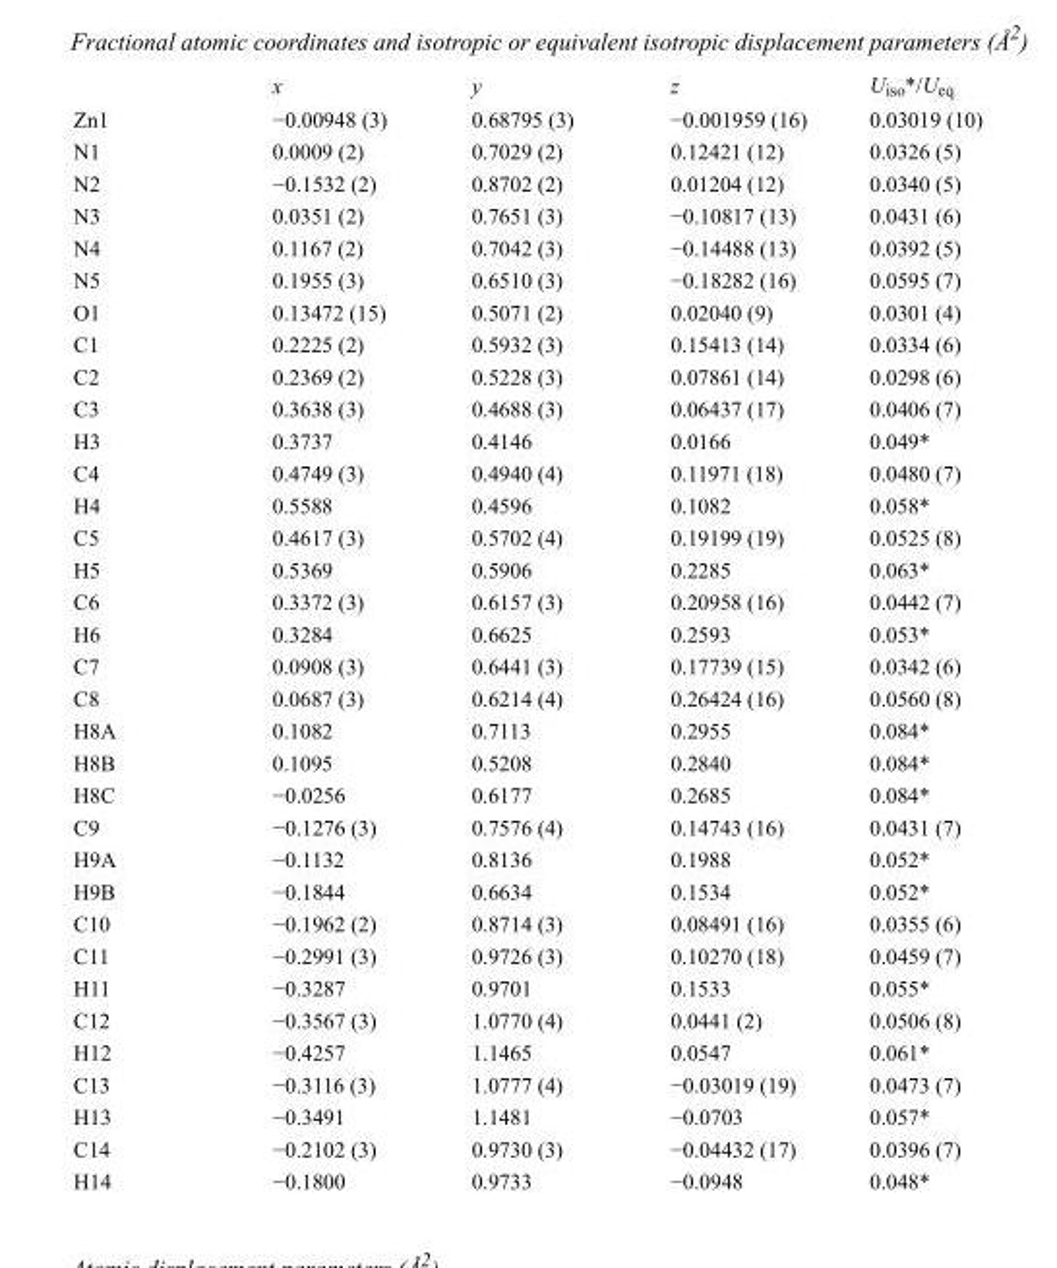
<table><thead><tr><td></td><td>x</td><td>y</td><td>z</td><td>U<sub>iso</sub>*/U<sub>eq</sub></td></tr></thead><tbody><tr><td>Zn1</td><td>−0.00948 (3)</td><td>0.68795 (3)</td><td>−0.001959 (16)</td><td>0.03019 (10)</td></tr><tr><td>N1</td><td>0.0009 (2)</td><td>0.7029 (2)</td><td>0.12421 (12)</td><td>0.0326 (5)</td></tr><tr><td>N2</td><td>−0.1532 (2)</td><td>0.8702 (2)</td><td>0.01204 (12)</td><td>0.0340 (5)</td></tr><tr><td>N3</td><td>0.0351 (2)</td><td>0.7651 (3)</td><td>−0.10817 (13)</td><td>0.0431 (6)</td></tr><tr><td>N4</td><td>0.1167 (2)</td><td>0.7042 (3)</td><td>−0.14488 (13)</td><td>0.0392 (5)</td></tr><tr><td>N5</td><td>0.1955 (3)</td><td>0.6510 (3)</td><td>−0.18282 (16)</td><td>0.0595 (7)</td></tr><tr><td>O1</td><td>0.13472 (15)</td><td>0.5071 (2)</td><td>0.02040 (9)</td><td>0.0301 (4)</td></tr><tr><td>C1</td><td>0.2225 (2)</td><td>0.5932 (3)</td><td>0.15413 (14)</td><td>0.0334 (6)</td></tr><tr><td>C2</td><td>0.2369 (2)</td><td>0.5228 (3)</td><td>0.07861 (14)</td><td>0.0298 (6)</td></tr><tr><td>C3</td><td>0.3638 (3)</td><td>0.4688 (3)</td><td>0.06437 (17)</td><td>0.0406 (7)</td></tr><tr><td>H3</td><td>0.3737</td><td>0.4146</td><td>0.0166</td><td>0.049*</td></tr><tr><td>C4</td><td>0.4749 (3)</td><td>0.4940 (4)</td><td>0.11971 (18)</td><td>0.0480 (7)</td></tr><tr><td>H4</td><td>0.5588</td><td>0.4596</td><td>0.1082</td><td>0.058*</td></tr><tr><td>C5</td><td>0.4617 (3)</td><td>0.5702 (4)</td><td>0.19199 (19)</td><td>0.0525 (8)</td></tr><tr><td>H5</td><td>0.5369</td><td>0.5906</td><td>0.2285</td><td>0.063*</td></tr><tr><td>C6</td><td>0.3372 (3)</td><td>0.6157 (3)</td><td>0.20958 (16)</td><td>0.0442 (7)</td></tr><tr><td>H6</td><td>0.3284</td><td>0.6625</td><td>0.2593</td><td>0.053*</td></tr><tr><td>C7</td><td>0.0908 (3)</td><td>0.6441 (3)</td><td>0.17739 (15)</td><td>0.0342 (6)</td></tr><tr><td>C8</td><td>0.0687 (3)</td><td>0.6214 (4)</td><td>0.26424 (16)</td><td>0.0560 (8)</td></tr><tr><td>H8A</td><td>0.1082</td><td>0.7113</td><td>0.2955</td><td>0.084*</td></tr><tr><td>H8B</td><td>0.1095</td><td>0.5208</td><td>0.2840</td><td>0.084*</td></tr><tr><td>H8C</td><td>−0.0256</td><td>0.6177</td><td>0.2685</td><td>0.084*</td></tr><tr><td>C9</td><td>−0.1276 (3)</td><td>0.7576 (4)</td><td>0.14743 (16)</td><td>0.0431 (7)</td></tr><tr><td>H9A</td><td>−0.1132</td><td>0.8136</td><td>0.1988</td><td>0.052*</td></tr><tr><td>H9B</td><td>−0.1844</td><td>0.6634</td><td>0.1534</td><td>0.052*</td></tr><tr><td>C10</td><td>−0.1962 (2)</td><td>0.8714 (3)</td><td>0.08491 (16)</td><td>0.0355 (6)</td></tr><tr><td>C11</td><td>−0.2991 (3)</td><td>0.9726 (3)</td><td>0.10270 (18)</td><td>0.0459 (7)</td></tr><tr><td>H11</td><td>−0.3287</td><td>0.9701</td><td>0.1533</td><td>0.055*</td></tr><tr><td>C12</td><td>−0.3567 (3)</td><td>1.0770 (4)</td><td>0.0441 (2)</td><td>0.0506 (8)</td></tr><tr><td>H12</td><td>−0.4257</td><td>1.1465</td><td>0.0547</td><td>0.061*</td></tr><tr><td>C13</td><td>−0.3116 (3)</td><td>1.0777 (4)</td><td>−0.03019 (19)</td><td>0.0473 (7)</td></tr><tr><td>H13</td><td>−0.3491</td><td>1.1481</td><td>−0.0703</td><td>0.057*</td></tr><tr><td>C14</td><td>−0.2102 (3)</td><td>0.9730 (3)</td><td>−0.04432 (17)</td><td>0.0396 (7)</td></tr><tr><td>H14</td><td>−0.1800</td><td>0.9733</td><td>−0.0948</td><td>0.048*</td></tr></tbody></table>